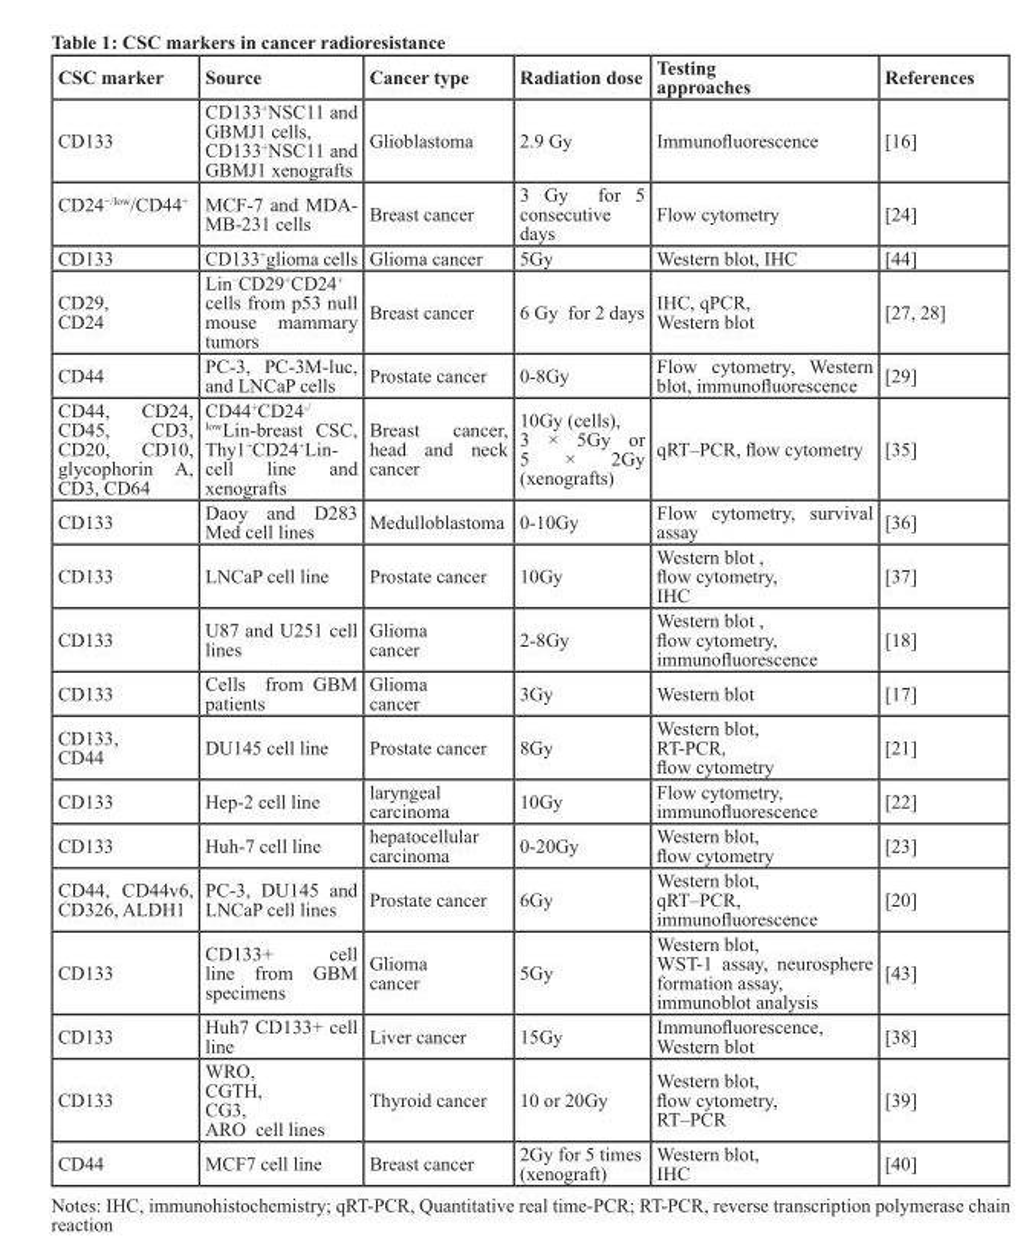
<table><thead><tr><td>CSC marker</td><td>Source</td><td>Cancer type</td><td>Radiation dose</td><td>Testing approaches</td><td>References</td></tr></thead><tbody><tr><td>CD133</td><td>CD133<sup>+</sup>NSC11 and GBMJ1 cells, CD133<sup>+</sup>NSC11 and GBMJ1 xenografts</td><td>Glioblastoma</td><td>2.9 Gy</td><td>Immunofluorescence</td><td>[16]</td></tr><tr><td>CD24<sup>−/low</sup>/CD44<sup>+</sup></td><td>MCF-7 and MDA- MB-231 cells</td><td>Breast cancer</td><td>3 Gy for 5 consecutive days</td><td>Flow cytometry</td><td>[24]</td></tr><tr><td>CD133</td><td>CD133<sup>+</sup>glioma cells</td><td>Glioma cancer</td><td>5Gy</td><td>Western blot, IHC</td><td>[44]</td></tr><tr><td>CD29, CD24</td><td>Lin<sup>−</sup>CD29<sup>+</sup>CD24<sup>+</sup> cells from p53 null mouse mammary tumors</td><td>Breast cancer</td><td>6 Gy for 2 days</td><td>IHC, qPCR, Western blot</td><td>[27, 28]</td></tr><tr><td>CD44</td><td>PC-3, PC-3M-luc, and LNCaP cells</td><td>Prostate cancer</td><td>0-8Gy</td><td>Flow cytometry, Western blot, immunofluorescence</td><td>[29]</td></tr><tr><td>CD44, CD24, CD45, CD3, CD20, CD10, glycophorin A, CD3, CD64</td><td>CD44<sup>+</sup>CD24<sup>-/ low</sup>Lin-breast CSC, Thy1<sup>+</sup>CD24<sup>+</sup>Lin- cell line and xenografts</td><td>Breast cancer, head and neck cancer</td><td>10Gy (cells), 3 × 5Gy or 5 × 2Gy (xenografts)</td><td>qRT–PCR, flow cytometry</td><td>[35]</td></tr><tr><td>CD133</td><td>Daoy and D283 Med cell lines</td><td>Medulloblastoma</td><td>0-10Gy</td><td>Flow cytometry, survival assay</td><td>[36]</td></tr><tr><td>CD133</td><td>LNCaP cell line</td><td>Prostate cancer</td><td>10Gy</td><td>Western blot , flow cytometry, IHC</td><td>[37]</td></tr><tr><td>CD133</td><td>U87 and U251 cell lines</td><td>Glioma cancer</td><td>2-8Gy</td><td>Western blot , flow cytometry, immunofluorescence</td><td>[18]</td></tr><tr><td>CD133</td><td>Cells from GBM patients</td><td>Glioma cancer</td><td>3Gy</td><td>Western blot</td><td>[17]</td></tr><tr><td>CD133, CD44</td><td>DU145 cell line</td><td>Prostate cancer</td><td>8Gy</td><td>Western blot, RT-PCR, flow cytometry</td><td>[21]</td></tr><tr><td>CD133</td><td>Hep-2 cell line</td><td>laryngeal carcinoma</td><td>10Gy</td><td>Flow cytometry, immunofluorescence</td><td>[22]</td></tr><tr><td>CD133</td><td>Huh-7 cell line</td><td>hepatocellular carcinoma</td><td>0-20Gy</td><td>Western blot, flow cytometry</td><td>[23]</td></tr><tr><td>CD44, CD44v6, CD326, ALDH1</td><td>PC-3, DU145 and LNCaP cell lines</td><td>Prostate cancer</td><td>6Gy</td><td>Western blot, qRT–PCR, immunofluorescence</td><td>[20]</td></tr><tr><td>CD133</td><td>CD133+ cell line from GBM specimens</td><td>Glioma cancer</td><td>5Gy</td><td>Western blot, WST-1 assay, neurosphere formation assay, immunoblot analysis</td><td>[43]</td></tr><tr><td>CD133</td><td>Huh7 CD133+ cell line</td><td>Liver cancer</td><td>15Gy</td><td>Immunofluorescence, Western blot</td><td>[38]</td></tr><tr><td>CD133</td><td>WRO, CGTH, CG3, ARO cell lines</td><td>Thyroid cancer</td><td>10 or 20Gy</td><td>Western blot, flow cytometry, RT–PCR</td><td>[39]</td></tr><tr><td>CD44</td><td>MCF7 cell line</td><td>Breast cancer</td><td>2Gy for 5 times (xenograft)</td><td>Western blot, IHC</td><td>[40]</td></tr></tbody></table>